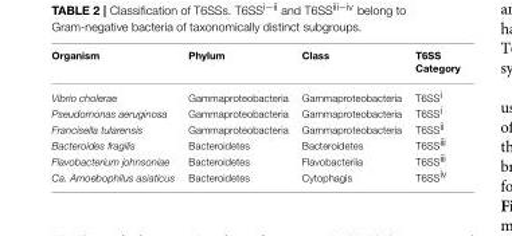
<table><thead><tr><td>Organism</td><td>Phylum</td><td>Class</td><td>T6SS Category</td></tr></thead><tbody><tr><td>Vibrio cholerae</td><td>Gammaproteobacteria</td><td>Gammaproteobacteria</td><td>T6SS<sup>i</sup></td></tr><tr><td>Pseudomonas aeruginosa</td><td>Gammaproteobacteria</td><td>Gammaproteobacteria</td><td>T6SS<sup>i</sup></td></tr><tr><td>Francisella tularensis</td><td>Gammaproteobacteria</td><td>Gammaproteobacteria</td><td>T6SS<sup>ii</sup></td></tr><tr><td>Bacteroides fragilis</td><td>Bacteroidetes</td><td>Bacteroidetes</td><td>T6SS<sup>iii</sup></td></tr><tr><td>Flavobacterium johnsoniae</td><td>Bacteroidetes</td><td>Flavobacteriia</td><td>T6SS<sup>iii</sup></td></tr><tr><td>Ca. Amoebophilus asiaticus</td><td>Bacteroidetes</td><td>Cytophagis</td><td>T6SS<sup>iv</sup></td></tr></tbody></table>